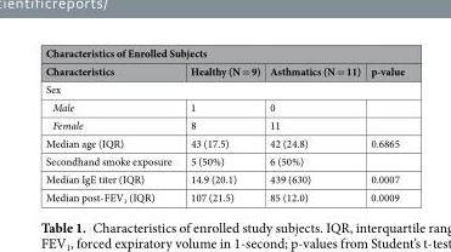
<table><thead><tr><td colspan="4">Characteristics of Enrolled Subjects</td></tr><tr><td>Characteristics</td><td>Healthy (N = 9)</td><td>Asthmatics (N = 11)</td><td>p-value</td></tr></thead><tbody><tr><td colspan="4">Sex</td></tr><tr><td>Male</td><td>1</td><td>0</td><td></td></tr><tr><td>Female</td><td>8</td><td>11</td><td></td></tr><tr><td>Median age (IQR)</td><td>43 (17.5)</td><td>42 (24.8)</td><td>0.6865</td></tr><tr><td>Secondhand smoke exposure</td><td>5 (50%)</td><td>6 (50%)</td><td></td></tr><tr><td>Median IgE titer (IQR)</td><td>14.9 (20.1)</td><td>439 (630)</td><td>0.0007</td></tr><tr><td>Median post-FEV<sub>1</sub> (IQR)</td><td>107 (21.5)</td><td>85 (12.0)</td><td>0.0009</td></tr></tbody></table>